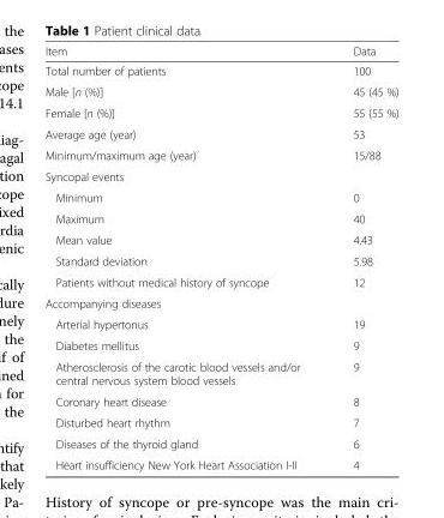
<table><thead><tr><td>Item</td><td>Data</td></tr></thead><tbody><tr><td>Total number of patients</td><td>100</td></tr><tr><td>Male [n (%)]</td><td>45 (45 %)</td></tr><tr><td>Female [n (%)]</td><td>55 (55 %)</td></tr><tr><td>Average age (year)</td><td>53</td></tr><tr><td>Minimum/maximum age (year)</td><td>15/88</td></tr><tr><td colspan="2">Syncopal events</td></tr><tr><td>Minimum</td><td>0</td></tr><tr><td>Maximum</td><td>40</td></tr><tr><td>Mean value</td><td>4.43</td></tr><tr><td>Standard deviation</td><td>5.98</td></tr><tr><td>Patients without medical history of syncope</td><td>12</td></tr><tr><td colspan="2">Accompanying diseases</td></tr><tr><td>Arterial hypertonus</td><td>19</td></tr><tr><td>Diabetes mellitus</td><td>9</td></tr><tr><td>Atherosclerosis of the carotic blood vessels and/or central nervous system blood vessels</td><td>9</td></tr><tr><td>Coronary heart disease</td><td>8</td></tr><tr><td>Disturbed heart rhythm</td><td>7</td></tr><tr><td>Diseases of the thyroid gland</td><td>6</td></tr><tr><td>Heart insufficiency New York Heart Association I-II</td><td>4</td></tr></tbody></table>